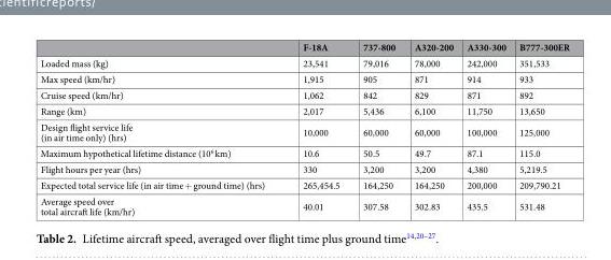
<table><thead><tr><td></td><td>F-18A</td><td>737-800</td><td>A320-200</td><td>A330-300</td><td>B777-300ER</td></tr></thead><tbody><tr><td>Loaded mass (kg)</td><td>23,541</td><td>79,016</td><td>78,000</td><td>242,000</td><td>351,533</td></tr><tr><td>Max speed (km/hr)</td><td>1,915</td><td>905</td><td>871</td><td>914</td><td>933</td></tr><tr><td>Cruise speed (km/hr)</td><td>1,062</td><td>842</td><td>829</td><td>871</td><td>892</td></tr><tr><td>Range (km)</td><td>2,017</td><td>5,436</td><td>6,100</td><td>11,750</td><td>13,650</td></tr><tr><td>Design flight service life (in air time only) (hrs)</td><td>10,000</td><td>60,000</td><td>60,000</td><td>100,000</td><td>125,000</td></tr><tr><td>Maximum hypothetical lifetime distance (10<sup>6</sup> km)</td><td>10.6</td><td>50.5</td><td>49.7</td><td>87.1</td><td>115.0</td></tr><tr><td>Flight hours per year (hrs)</td><td>330</td><td>3,200</td><td>3,200</td><td>4,380</td><td>5,219.5</td></tr><tr><td>Expected total service life (in air time + ground time) (hrs)</td><td>265,454.5</td><td>164,250</td><td>164,250</td><td>200,000</td><td>209,790.21</td></tr><tr><td>Average speed over total aircraft life (km/hr)</td><td>40.01</td><td>307.58</td><td>302.83</td><td>435.5</td><td>531.48</td></tr></tbody></table>